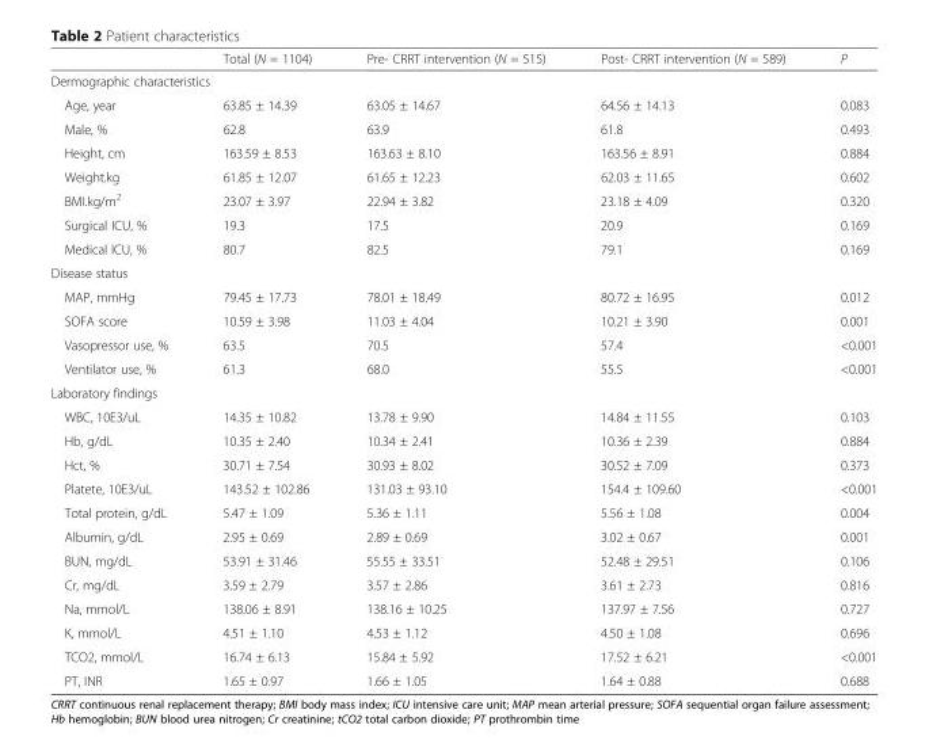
<table><thead><tr><td></td><td>Total (N = 1104)</td><td>Pre- CRRT intervention (N = 515)</td><td>Post- CRRT intervention (N = 589)</td><td>P</td></tr></thead><tbody><tr><td colspan="5">Dermographic characteristics</td></tr><tr><td>Age, year</td><td>63.85 ± 14.39</td><td>63.05 ± 14.67</td><td>64.56 ± 14.13</td><td>0.083</td></tr><tr><td>Male, %</td><td>62.8</td><td>63.9</td><td>61.8</td><td>0.493</td></tr><tr><td>Height, cm</td><td>163.59 ± 8.53</td><td>163.63 ± 8.10</td><td>163.56 ± 8.91</td><td>0.884</td></tr><tr><td>Weight.kg</td><td>61.85 ± 12.07</td><td>61.65 ± 12.23</td><td>62.03 ± 11.65</td><td>0.602</td></tr><tr><td>BMI.kg/m<sup>2</sup></td><td>23.07 ± 3.97</td><td>22.94 ± 3.82</td><td>23.18 ± 4.09</td><td>0.320</td></tr><tr><td>Surgical ICU, %</td><td>19.3</td><td>17.5</td><td>20.9</td><td>0.169</td></tr><tr><td>Medical ICU, %</td><td>80.7</td><td>82.5</td><td>79.1</td><td>0.169</td></tr><tr><td colspan="5">Disease status</td></tr><tr><td>MAP, mmHg</td><td>79.45 ± 17.73</td><td>78.01 ± 18.49</td><td>80.72 ± 16.95</td><td>0.012</td></tr><tr><td>SOFA score</td><td>10.59 ± 3.98</td><td>11.03 ± 4.04</td><td>10.21 ± 3.90</td><td>0.001</td></tr><tr><td>Vasopressor use, %</td><td>63.5</td><td>70.5</td><td>57.4</td><td>&lt;0.001</td></tr><tr><td>Ventilator use, %</td><td>61.3</td><td>68.0</td><td>55.5</td><td>&lt;0.001</td></tr><tr><td colspan="5">Laboratory findings</td></tr><tr><td>WBC, 10E3/uL</td><td>14.35 ± 10.82</td><td>13.78 ± 9.90</td><td>14.84 ± 11.55</td><td>0.103</td></tr><tr><td>Hb, g/dL</td><td>10.35 ± 2.40</td><td>10.34 ± 2.41</td><td>10.36 ± 2.39</td><td>0.884</td></tr><tr><td>Hct, %</td><td>30.71 ± 7.54</td><td>30.93 ± 8.02</td><td>30.52 ± 7.09</td><td>0.373</td></tr><tr><td>Platete, 10E3/uL</td><td>143.52 ± 102.86</td><td>131.03 ± 93.10</td><td>154.4 ± 109.60</td><td>&lt;0.001</td></tr><tr><td>Total protein, g/dL</td><td>5.47 ± 1.09</td><td>5.36 ± 1.11</td><td>5.56 ± 1.08</td><td>0.004</td></tr><tr><td>Albumin, g/dL</td><td>2.95 ± 0.69</td><td>2.89 ± 0.69</td><td>3.02 ± 0.67</td><td>0.001</td></tr><tr><td>BUN, mg/dL</td><td>53.91 ± 31.46</td><td>55.55 ± 33.51</td><td>52.48 ± 29.51</td><td>0.106</td></tr><tr><td>Cr, mg/dL</td><td>3.59 ± 2.79</td><td>3.57 ± 2.86</td><td>3.61 ± 2.73</td><td>0.816</td></tr><tr><td>Na, mmol/L</td><td>138.06 ± 8.91</td><td>138.16 ± 10.25</td><td>137.97 ± 7.56</td><td>0.727</td></tr><tr><td>K, mmol/L</td><td>4.51 ± 1.10</td><td>4.53 ± 1.12</td><td>4.50 ± 1.08</td><td>0.696</td></tr><tr><td>TCO2, mmol/L</td><td>16.74 ± 6.13</td><td>15.84 ± 5.92</td><td>17.52 ± 6.21</td><td>&lt;0.001</td></tr><tr><td>PT, INR</td><td>1.65 ± 0.97</td><td>1.66 ± 1.05</td><td>1.64 ± 0.88</td><td>0.688</td></tr></tbody></table>